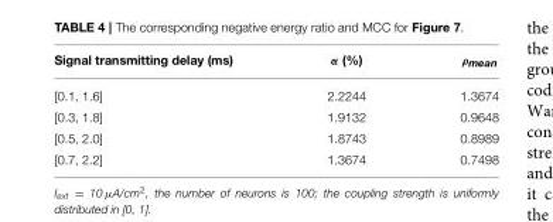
<table><thead><tr><td>Signal transmitting delay (ms)</td><td>α (%)</td><td>ρ<sub>mean</sub></td></tr></thead><tbody><tr><td>[0.1, 1.6]</td><td>2.2244</td><td>1.3674</td></tr><tr><td>[0.3, 1.8]</td><td>1.9132</td><td>0.9648</td></tr><tr><td>[0.5, 2.0]</td><td>1.8743</td><td>0.8989</td></tr><tr><td>[0.7, 2.2]</td><td>1.3674</td><td>0.7498</td></tr></tbody></table>